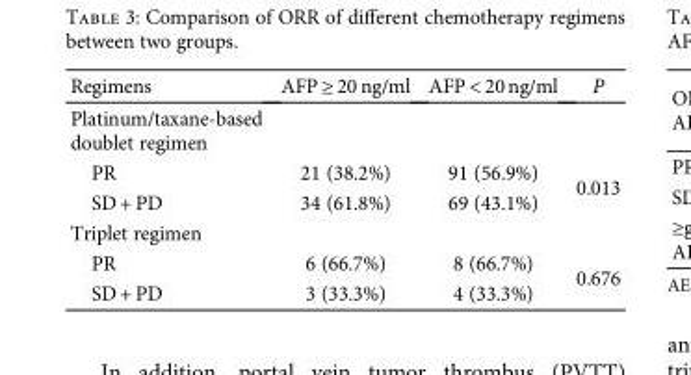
<table><thead><tr><td>Regimens</td><td>AFP ≥ 20 ng/ml</td><td>AFP &lt; 20 ng/ml</td><td>P</td></tr></thead><tbody><tr><td colspan="4">Platinum/taxane-based doublet regimen</td></tr><tr><td>PR</td><td>21 (38.2%)</td><td>91 (56.9%)</td><td rowspan="2">0.013</td></tr><tr><td>SD + PD</td><td>34 (61.8%)</td><td>69 (43.1%)</td></tr><tr><td colspan="4">Triplet regimen</td></tr><tr><td>PR</td><td>6 (66.7%)</td><td>8 (66.7%)</td><td rowspan="2">0.676</td></tr><tr><td>SD + PD</td><td>3 (33.3%)</td><td>4 (33.3%)</td></tr></tbody></table>